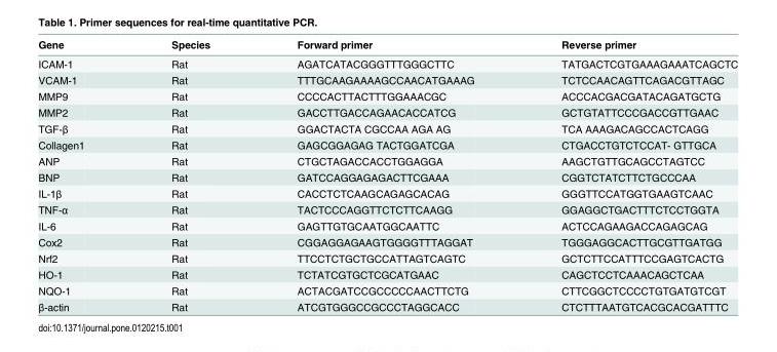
<table><thead><tr><td>Gene</td><td>Species</td><td>Forward primer</td><td>Reverse primer</td></tr></thead><tbody><tr><td>ICAM-1</td><td>Rat</td><td>AGATCATACGGGTTTGGGCTTC</td><td>TATGACTCGTGAAAGAAATCAGCTC</td></tr><tr><td>VCAM-1</td><td>Rat</td><td>TTTGCAAGAAAAGCCAACATGAAAG</td><td>TCTCCAACAGTTCAGACGTTAGC</td></tr><tr><td>MMP9</td><td>Rat</td><td>CCCCACTTACTTTGGAAACGC</td><td>ACCCACGACGATACAGATGCTG</td></tr><tr><td>MMP2</td><td>Rat</td><td>GACCTTGACCAGAACACCATCG</td><td>GCTGTATTCCCGACCGTTGAAC</td></tr><tr><td>TGF-β</td><td>Rat</td><td>GGACTACTA CGCCAA AGA AG</td><td>TCA AAAGACAGCCACTCAGG</td></tr><tr><td>Collagen1</td><td>Rat</td><td>GAGCGGAGAG TACTGGATCGA</td><td>CTGACCTGTCTCCAT- GTTGCA</td></tr><tr><td>ANP</td><td>Rat</td><td>CTGCTAGACCACCTGGAGGA</td><td>AAGCTGTTGCAGCCTAGTCC</td></tr><tr><td>BNP</td><td>Rat</td><td>GATCCAGGAGAGACTTCGAAA</td><td>CGGTCTATCTTCTGCCCAA</td></tr><tr><td>IL-1β</td><td>Rat</td><td>CACCTCTCAAGCAGAGCACAG</td><td>GGGTTCCATGGTGAAGTCAAC</td></tr><tr><td>TNF-α</td><td>Rat</td><td>TACTCCCAGGTTCTCTTCAAGG</td><td>GGAGGCTGACTTTCTCCTGGTA</td></tr><tr><td>IL-6</td><td>Rat</td><td>GAGTTGTGCAATGGCAATTC</td><td>ACTCCAGAAGACCAGAGCAG</td></tr><tr><td>Cox2</td><td>Rat</td><td>CGGAGGAGAAGTGGGGTTTAGGAT</td><td>TGGGAGGCACTTGCGTTGATGG</td></tr><tr><td>Nrf2</td><td>Rat</td><td>TTCCTCTGCTGCCATTAGTCAGTC</td><td>GCTCTTCCATTTCCGAGTCACTG</td></tr><tr><td>HO-1</td><td>Rat</td><td>TCTATCGTGCTCGCATGAAC</td><td>CAGCTCCTCAAACAGCTCAA</td></tr><tr><td>NQO-1</td><td>Rat</td><td>ACTACGATCCGCCCCCAACTTCTG</td><td>CTTCGGCTCCCCTGTGATGTCGT</td></tr><tr><td>β-actin</td><td>Rat</td><td>ATCGTGGGCCGCCCTAGGCACC</td><td>CTCTTTAATGTCACGCACGATTTC</td></tr></tbody></table>